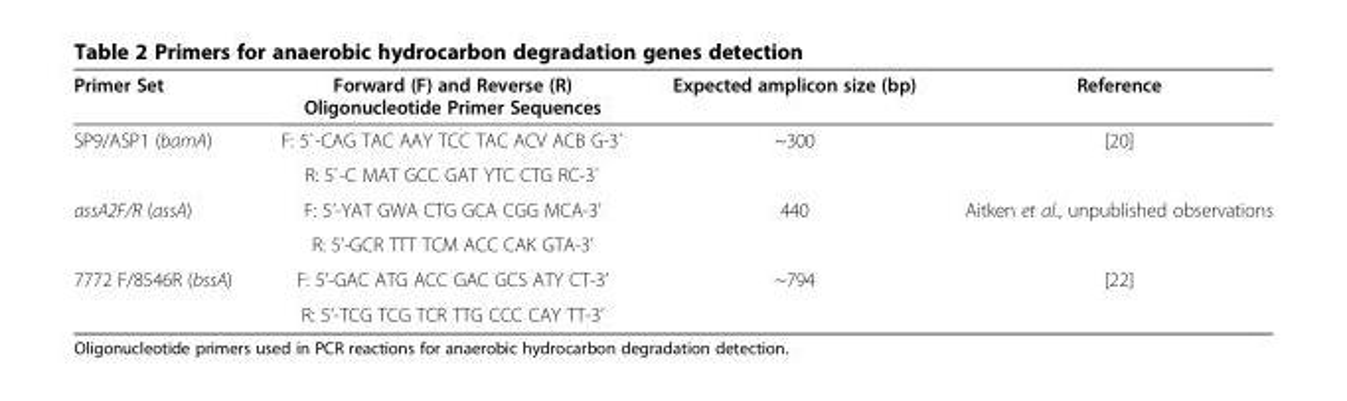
<table><thead><tr><td>Primer Set</td><td>Forward (F) and Reverse (R) Oligonucleotide Primer Sequences</td><td>Expected amplicon size (bp)</td><td>Reference</td></tr></thead><tbody><tr><td rowspan="2">SP9/ASP1 (bamA)</td><td>F: 5`-CAG TAC AAY TCC TAC ACV ACB G-3`</td><td rowspan="2">~300</td><td rowspan="2">[20]</td></tr><tr><td>R: 5`-C MAT GCC GAT YTC CTG RC-3`</td></tr><tr><td rowspan="2">assA2F/R (assA)</td><td>F: 5’-YAT GWA CTG GCA CGG MCA-3’</td><td rowspan="2">440</td><td rowspan="2">Aitken et al., unpublished observations</td></tr><tr><td>R: 5’-GCR TTT TCM ACC CAK GTA-3’</td></tr><tr><td rowspan="2">7772 F/8546R (bssA)</td><td>F: 5’-GAC ATG ACC GAC GCS ATY CT-3’</td><td rowspan="2">~794</td><td rowspan="2">[22]</td></tr><tr><td>R: 5’-TCG TCG TCR TTG CCC CAY TT-3’</td></tr></tbody></table>